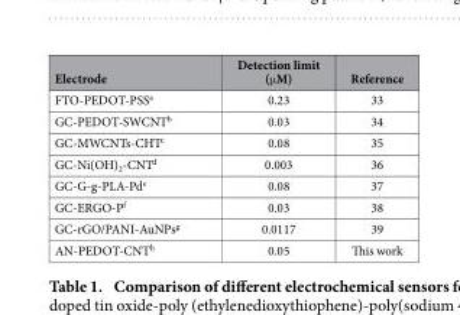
<table><thead><tr><td>Electrode</td><td>Detection limit (μM)</td><td>Reference</td></tr></thead><tbody><tr><td>FTO-PEDOT-PSS<sup>a</sup></td><td>0.23</td><td>33</td></tr><tr><td>GC-PEDOT-SWCNT<sup>b</sup></td><td>0.03</td><td>34</td></tr><tr><td>GC-MWCNTs-CHT<sup>c</sup></td><td>0.08</td><td>35</td></tr><tr><td>GC-Ni(OH)<sub>2</sub>-CNT<sup>d</sup></td><td>0.003</td><td>36</td></tr><tr><td>GC-G-g-PLA-Pd<sup>e</sup></td><td>0.08</td><td>37</td></tr><tr><td>GC-ERGO-P<sup>f</sup></td><td>0.03</td><td>38</td></tr><tr><td>GC-rGO/PANI-AuNPs<sup>g</sup></td><td>0.0117</td><td>39</td></tr><tr><td>AN-PEDOT-CNT<sup>h</sup></td><td>0.05</td><td>This work</td></tr></tbody></table>